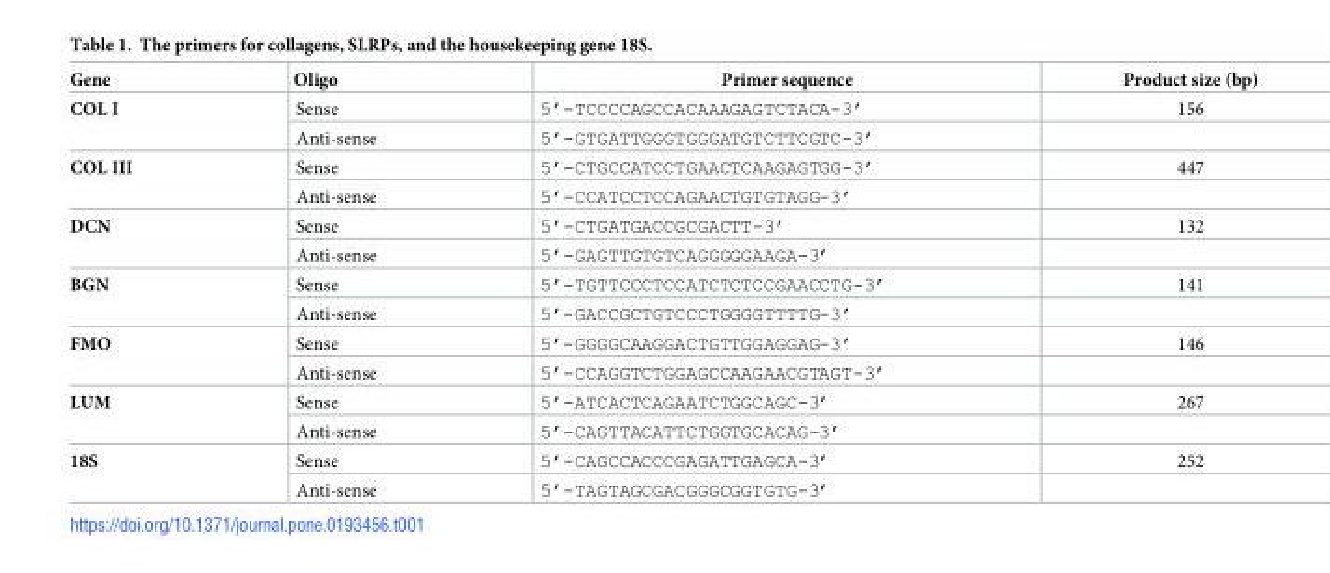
<table><thead><tr><td>Gene</td><td>Oligo</td><td>Primer sequence</td><td>Product size (bp)</td></tr></thead><tbody><tr><td rowspan="2">COL I</td><td>Sense</td><td>5’-TCCCCAGCCACAAAGAGTCTACA-3’</td><td>156</td></tr><tr><td>Anti-sense</td><td>5’-GTGATTGGGTGGGATGTCTTCGTC-3’</td><td></td></tr><tr><td rowspan="2">COL III</td><td>Sense</td><td>5’-CTGCCATCCTGAACTCAAGAGTGG-3’</td><td>447</td></tr><tr><td>Anti-sense</td><td>5’-CCATCCTCCAGAACTGTGTAGG-3’</td><td></td></tr><tr><td rowspan="2">DCN</td><td>Sense</td><td>5’-CTGATGACCGCGACTT-3’</td><td>132</td></tr><tr><td>Anti-sense</td><td>5’-GAGTTGTGTCAGGGGGAAGA-3’</td><td></td></tr><tr><td rowspan="2">BGN</td><td>Sense</td><td>5’-TGTTCCCTCCATCTCTCCGAACCTG-3’</td><td>141</td></tr><tr><td>Anti-sense</td><td>5’-GACCGCTGTCCCTGGGGTTTTG-3’</td><td></td></tr><tr><td rowspan="2">FMO</td><td>Sense</td><td>5’-GGGGCAAGGACTGTTGGAGGAG-3’</td><td>146</td></tr><tr><td>Anti-sense</td><td>5’-CCAGGTCTGGAGCCAAGAACGTAGT-3’</td><td></td></tr><tr><td rowspan="2">LUM</td><td>Sense</td><td>5’-ATCACTCAGAATCTGGCAGC-3’</td><td>267</td></tr><tr><td>Anti-sense</td><td>5’-CAGTTACATTCTGGTGCACAG-3’</td><td></td></tr><tr><td rowspan="2">18S</td><td>Sense</td><td>5’-CAGCCACCCGAGATTGAGCA-3’</td><td>252</td></tr><tr><td>Anti-sense</td><td>5’-TAGTAGCGACGGGCGGTGTG-3’</td><td></td></tr></tbody></table>